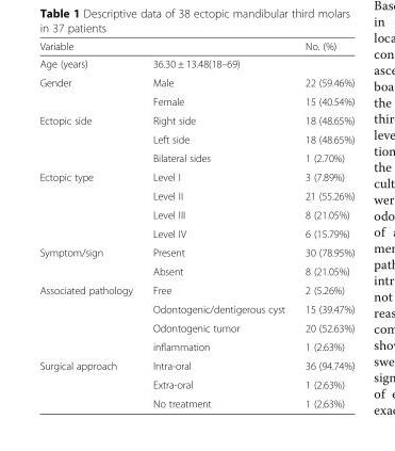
<table><thead><tr><td>Variable</td><td></td><td>No. (%)</td></tr></thead><tbody><tr><td>Age (years)</td><td colspan="2">36.30 ± 13.48(18–69)</td></tr><tr><td rowspan="2">Gender</td><td>Male</td><td>22 (59.46%)</td></tr><tr><td>Female</td><td>15 (40.54%)</td></tr><tr><td rowspan="3">Ectopic side</td><td>Right side</td><td>18 (48.65%)</td></tr><tr><td>Left side</td><td>18 (48.65%)</td></tr><tr><td>Bilateral sides</td><td>1 (2.70%)</td></tr><tr><td rowspan="4">Ectopic type</td><td>Level I</td><td>3 (7.89%)</td></tr><tr><td>Level II</td><td>21 (55.26%)</td></tr><tr><td>Level III</td><td>8 (21.05%)</td></tr><tr><td>Level IV</td><td>6 (15.79%)</td></tr><tr><td rowspan="2">Symptom/sign</td><td>Present</td><td>30 (78.95%)</td></tr><tr><td>Absent</td><td>8 (21.05%)</td></tr><tr><td rowspan="4">Associated pathology</td><td>Free</td><td>2 (5.26%)</td></tr><tr><td>Odontogenic/dentigerous cyst</td><td>15 (39.47%)</td></tr><tr><td>Odontogenic tumor</td><td>20 (52.63%)</td></tr><tr><td>inflammation</td><td>1 (2.63%)</td></tr><tr><td rowspan="3">Surgical approach</td><td>Intra-oral</td><td>36 (94.74%)</td></tr><tr><td>Extra-oral</td><td>1 (2.63%)</td></tr><tr><td>No treatment</td><td>1 (2.63%)</td></tr></tbody></table>